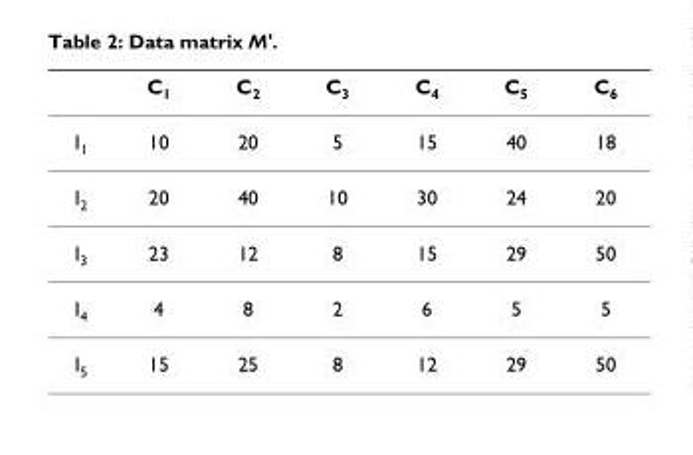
<table><thead><tr><td></td><td>C<sub>1</sub></td><td>C<sub>2</sub></td><td>C<sub>3</sub></td><td>C<sub>4</sub></td><td>C<sub>5</sub></td><td>C<sub>6</sub></td></tr></thead><tbody><tr><td>I<sub>1</sub></td><td>10</td><td>20</td><td>5</td><td>15</td><td>40</td><td>18</td></tr><tr><td>I<sub>2</sub></td><td>20</td><td>40</td><td>10</td><td>30</td><td>24</td><td>20</td></tr><tr><td>I<sub>3</sub></td><td>23</td><td>12</td><td>8</td><td>15</td><td>29</td><td>50</td></tr><tr><td>I<sub>4</sub></td><td>4</td><td>8</td><td>2</td><td>6</td><td>5</td><td>5</td></tr><tr><td>I<sub>5</sub></td><td>15</td><td>25</td><td>8</td><td>12</td><td>29</td><td>50</td></tr></tbody></table>